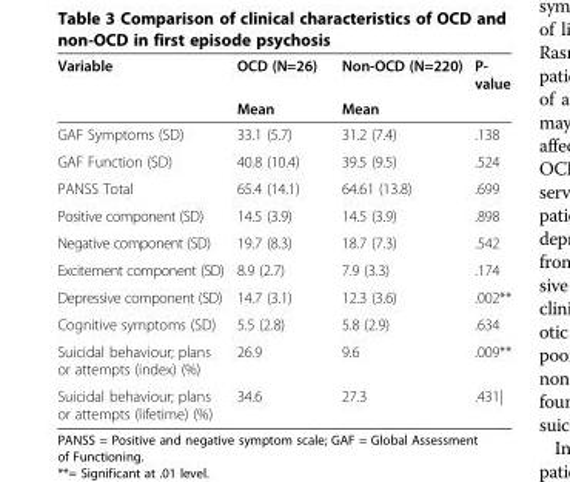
<table><thead><tr><td rowspan="2">Variable</td><td rowspan="2">OCD (N=26) Mean</td><td rowspan="2">Non-OCD (N=220) Mean</td><td rowspan="2">P- value</td></tr><tr></tr></thead><tbody><tr><td>GAF Symptoms (SD)</td><td>33.1 (5.7)</td><td>31.2 (7.4)</td><td>.138</td></tr><tr><td>GAF Function (SD)</td><td>40.8 (10.4)</td><td>39.5 (9.5)</td><td>.524</td></tr><tr><td>PANSS Total</td><td>65.4 (14.1)</td><td>64.61 (13.8)</td><td>.699</td></tr><tr><td>Positive component (SD)</td><td>14.5 (3.9)</td><td>14.5 (3.9)</td><td>.898</td></tr><tr><td>Negative component (SD)</td><td>19.7 (8.3)</td><td>18.7 (7.3)</td><td>.542</td></tr><tr><td>Excitement component (SD)</td><td>8.9 (2.7)</td><td>7.9 (3.3)</td><td>.174</td></tr><tr><td>Depressive component (SD)</td><td>14.7 (3.1)</td><td>12.3 (3.6)</td><td>.002**</td></tr><tr><td>Cognitive symptoms (SD)</td><td>5.5 (2.8)</td><td>5.8 (2.9)</td><td>.634</td></tr><tr><td>Suicidal behaviour; plans or attempts (index) (%)</td><td>26.9</td><td>9.6</td><td>.009**</td></tr><tr><td>Suicidal behaviour; plans or attempts (lifetime) (%)</td><td>34.6</td><td>27.3</td><td>.431|</td></tr></tbody></table>